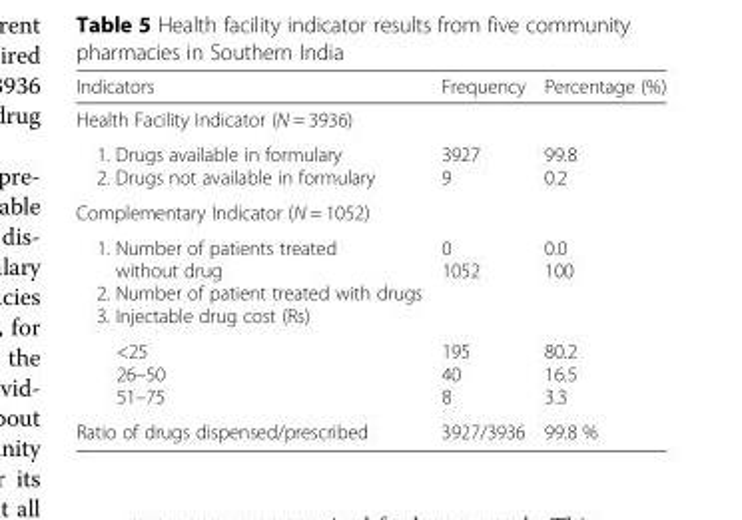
<table><thead><tr><td>Indicators</td><td>Frequency</td><td>Percentage (%)</td></tr></thead><tbody><tr><td colspan="3">Health Facility Indicator (N = 3936)</td></tr><tr><td>1. Drugs available in formulary 2. Drugs not available in formulary</td><td>3927 9</td><td>99.8 0.2</td></tr><tr><td colspan="3">Complementary Indicator (N = 1052)</td></tr><tr><td>1. Number of patients treated without drug 2. Number of patient treated with drugs 3. Injectable drug cost (Rs)</td><td>0 1052</td><td>0.0 100</td></tr><tr><td>&lt;25 26–50 51–75</td><td>195 40 8</td><td>80.2 16.5 3.3</td></tr><tr><td>Ratio of drugs dispensed/prescribed</td><td>3927/3936</td><td>99.8 %</td></tr></tbody></table>